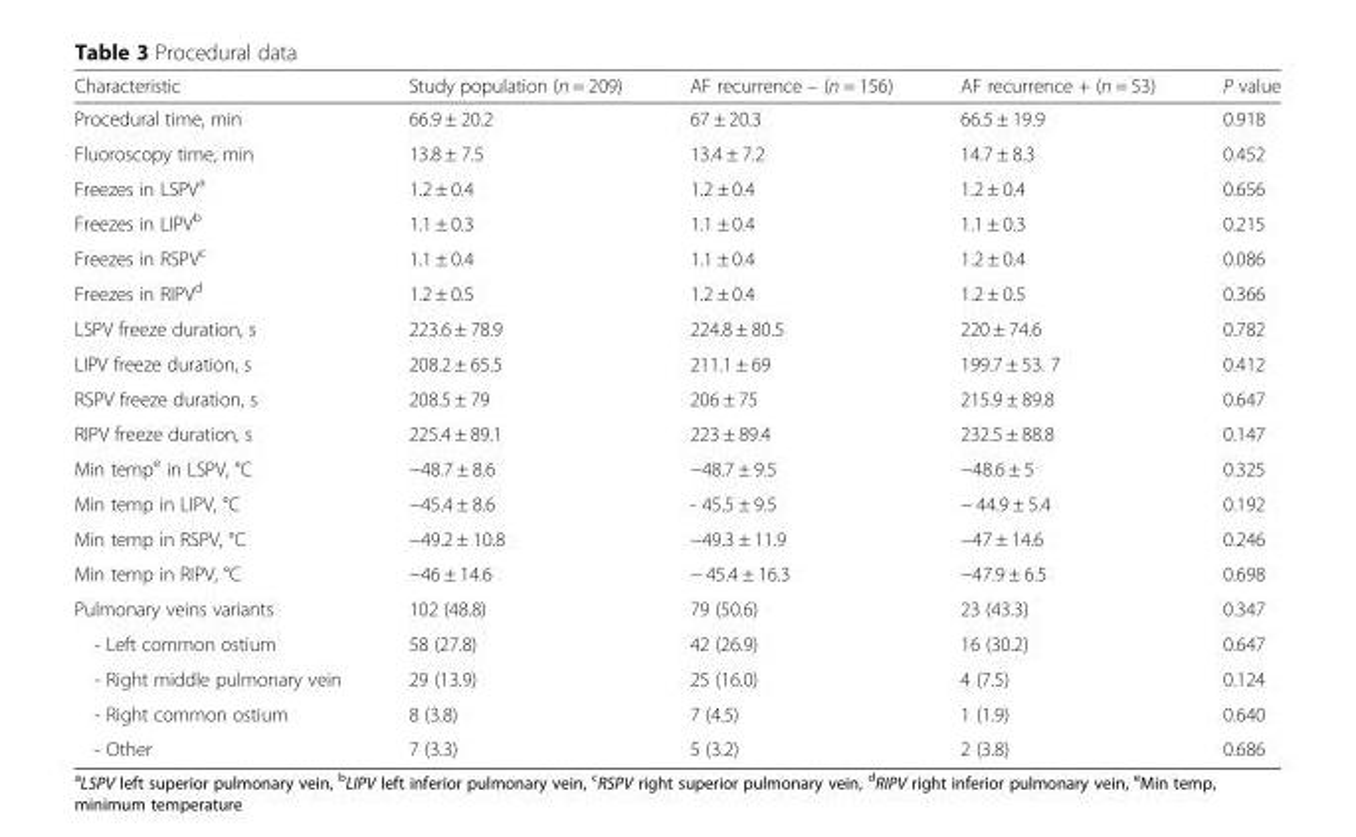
<table><thead><tr><td>Characteristic</td><td>Study population (n = 209)</td><td>AF recurrence – (n = 156)</td><td>AF recurrence + (n = 53)</td><td>P value</td></tr></thead><tbody><tr><td>Procedural time, min</td><td>66.9 ± 20.2</td><td>67 ± 20.3</td><td>66.5 ± 19.9</td><td>0.918</td></tr><tr><td>Fluoroscopy time, min</td><td>13.8 ± 7.5</td><td>13.4 ± 7.2</td><td>14.7 ± 8.3</td><td>0.452</td></tr><tr><td>Freezes in LSPV<sup>a</sup></td><td>1.2 ± 0.4</td><td>1.2 ± 0.4</td><td>1.2 ± 0.4</td><td>0.656</td></tr><tr><td>Freezes in LIPV<sup>b</sup></td><td>1.1 ± 0.3</td><td>1.1 ± 0.4</td><td>1.1 ± 0.3</td><td>0.215</td></tr><tr><td>Freezes in RSPV<sup>c</sup></td><td>1.1 ± 0.4</td><td>1.1 ± 0.4</td><td>1.2 ± 0.4</td><td>0.086</td></tr><tr><td>Freezes in RIPV<sup>d</sup></td><td>1.2 ± 0.5</td><td>1.2 ± 0.4</td><td>1.2 ± 0.5</td><td>0.366</td></tr><tr><td>LSPV freeze duration, s</td><td>223.6 ± 78.9</td><td>224.8 ± 80.5</td><td>220 ± 74.6</td><td>0.782</td></tr><tr><td>LIPV freeze duration, s</td><td>208.2 ± 65.5</td><td>211.1 ± 69</td><td>199.7 ± 53. 7</td><td>0.412</td></tr><tr><td>RSPV freeze duration, s</td><td>208.5 ± 79</td><td>206 ± 75</td><td>215.9 ± 89.8</td><td>0.647</td></tr><tr><td>RIPV freeze duration, s</td><td>225.4 ± 89.1</td><td>223 ± 89.4</td><td>232.5 ± 88.8</td><td>0.147</td></tr><tr><td>Min temp<sup>e</sup> in LSPV, °C</td><td>−48.7 ± 8.6</td><td>−48.7 ± 9.5</td><td>−48.6 ± 5</td><td>0.325</td></tr><tr><td>Min temp in LIPV, °C</td><td>−45.4 ± 8.6</td><td>- 45.5 ± 9.5</td><td>− 44.9 ± 5.4</td><td>0.192</td></tr><tr><td>Min temp in RSPV, °C</td><td>−49.2 ± 10.8</td><td>−49.3 ± 11.9</td><td>−47 ± 14.6</td><td>0.246</td></tr><tr><td>Min temp in RIPV, °C</td><td>−46 ± 14.6</td><td>− 45.4 ± 16.3</td><td>−47.9 ± 6.5</td><td>0.698</td></tr><tr><td>Pulmonary veins variants</td><td>102 (48.8)</td><td>79 (50.6)</td><td>23 (43.3)</td><td>0.347</td></tr><tr><td>- Left common ostium</td><td>58 (27.8)</td><td>42 (26.9)</td><td>16 (30.2)</td><td>0.647</td></tr><tr><td>- Right middle pulmonary vein</td><td>29 (13.9)</td><td>25 (16.0)</td><td>4 (7.5)</td><td>0.124</td></tr><tr><td>- Right common ostium</td><td>8 (3.8)</td><td>7 (4.5)</td><td>1 (1.9)</td><td>0.640</td></tr><tr><td>- Other</td><td>7 (3.3)</td><td>5 (3.2)</td><td>2 (3.8)</td><td>0.686</td></tr></tbody></table>